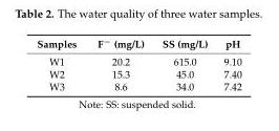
<table><thead><tr><td>Samples</td><td>F<sup>−</sup> (mg/L)</td><td>SS (mg/L)</td><td>pH</td></tr></thead><tbody><tr><td>W1</td><td>20.2</td><td>615.0</td><td>9.10</td></tr><tr><td>W2</td><td>15.3</td><td>45.0</td><td>7.40</td></tr><tr><td>W3</td><td>8.6</td><td>34.0</td><td>7.42</td></tr></tbody></table>